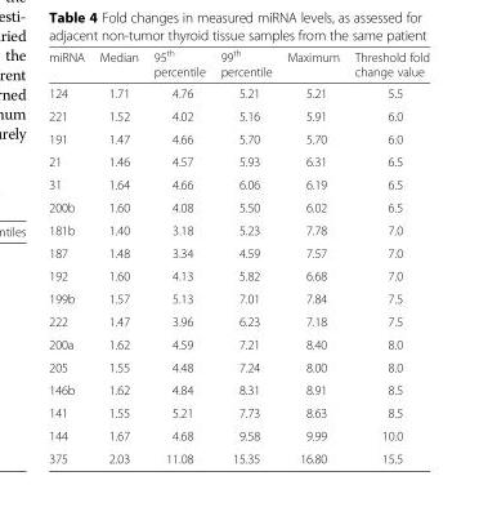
<table><thead><tr><td>miRNA</td><td>Median</td><td>95<sup>th</sup> percentile</td><td>99<sup>th</sup> percentile</td><td>Maximum</td><td>Threshold fold change value</td></tr></thead><tbody><tr><td>124</td><td>1.71</td><td>4.76</td><td>5.21</td><td>5.21</td><td>5.5</td></tr><tr><td>221</td><td>1.52</td><td>4.02</td><td>5.16</td><td>5.91</td><td>6.0</td></tr><tr><td>191</td><td>1.47</td><td>4.66</td><td>5.70</td><td>5.70</td><td>6.0</td></tr><tr><td>21</td><td>1.46</td><td>4.57</td><td>5.93</td><td>6.31</td><td>6.5</td></tr><tr><td>31</td><td>1.64</td><td>4.66</td><td>6.06</td><td>6.19</td><td>6.5</td></tr><tr><td>200b</td><td>1.60</td><td>4.08</td><td>5.50</td><td>6.02</td><td>6.5</td></tr><tr><td>181b</td><td>1.40</td><td>3.18</td><td>5.23</td><td>7.78</td><td>7.0</td></tr><tr><td>187</td><td>1.48</td><td>3.34</td><td>4.59</td><td>7.57</td><td>7.0</td></tr><tr><td>192</td><td>1.60</td><td>4.13</td><td>5.82</td><td>6.68</td><td>7.0</td></tr><tr><td>199b</td><td>1.57</td><td>5.13</td><td>7.01</td><td>7.84</td><td>7.5</td></tr><tr><td>222</td><td>1.47</td><td>3.96</td><td>6.23</td><td>7.18</td><td>7.5</td></tr><tr><td>200a</td><td>1.62</td><td>4.59</td><td>7.21</td><td>8.40</td><td>8.0</td></tr><tr><td>205</td><td>1.55</td><td>4.48</td><td>7.24</td><td>8.00</td><td>8.0</td></tr><tr><td>146b</td><td>1.62</td><td>4.84</td><td>8.31</td><td>8.91</td><td>8.5</td></tr><tr><td>141</td><td>1.55</td><td>5.21</td><td>7.73</td><td>8.63</td><td>8.5</td></tr><tr><td>144</td><td>1.67</td><td>4.68</td><td>9.58</td><td>9.99</td><td>10.0</td></tr><tr><td>375</td><td>2.03</td><td>11.08</td><td>15.35</td><td>16.80</td><td>15.5</td></tr></tbody></table>